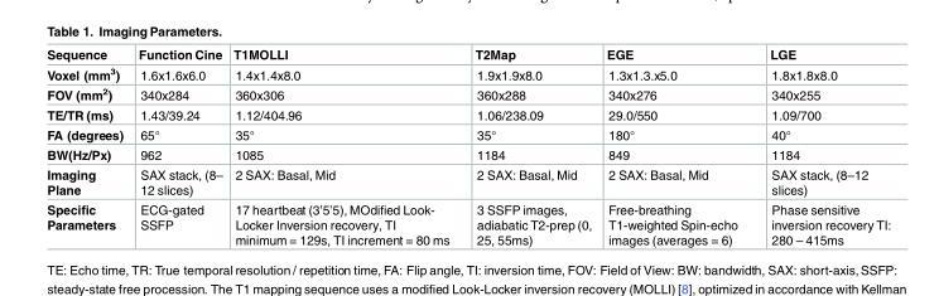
<table><thead><tr><td>Sequence</td><td>Function Cine</td><td>T1MOLLI</td><td>T2Map</td><td>EGE</td><td>LGE</td></tr></thead><tbody><tr><td>Voxel (mm<sup>3</sup>)</td><td>1.6x1.6x6.0</td><td>1.4x1.4x8.0</td><td>1.9x1.9x8.0</td><td>1.3x1.3.x5.0</td><td>1.8x1.8x8.0</td></tr><tr><td>FOV (mm<sup>2</sup>)</td><td>340x284</td><td>360x306</td><td>360x288</td><td>340x276</td><td>340x255</td></tr><tr><td>TE/TR (ms)</td><td>1.43/39.24</td><td>1.12/404.96</td><td>1.06/238.09</td><td>29.0/550</td><td>1.09/700</td></tr><tr><td>FA (degrees)</td><td>65°</td><td>35°</td><td>35°</td><td>180°</td><td>40°</td></tr><tr><td>BW(Hz/Px)</td><td>962</td><td>1085</td><td>1184</td><td>849</td><td>1184</td></tr><tr><td>Imaging Plane</td><td>SAX stack, (8– 12 slices)</td><td>2 SAX: Basal, Mid</td><td>2 SAX: Basal, Mid</td><td>2 SAX: Basal, Mid</td><td>SAX stack, (8–12 slices)</td></tr><tr><td>Specific Parameters</td><td>ECG-gated SSFP</td><td>17 heartbeat (3’5’5), MOdified Look- Locker Inversion recovery, TI minimum = 129s, TI increment = 80 ms</td><td>3 SSFP images, adiabatic T2-prep (0, 25, 55ms)</td><td>Free-breathing T1-weighted Spin-echo images (averages = 6)</td><td>Phase sensitive inversion recovery TI: 280 – 415ms</td></tr></tbody></table>